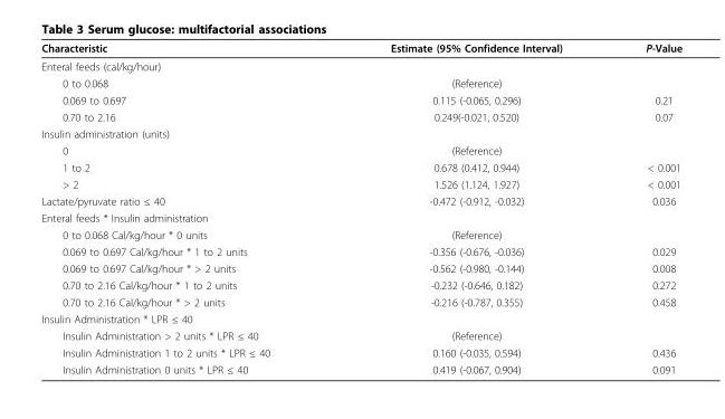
<table><thead><tr><td>Characteristic</td><td>Estimate (95% Confidence Interval)</td><td>P-Value</td></tr></thead><tbody><tr><td colspan="3">Enteral feeds (cal/kg/hour)</td></tr><tr><td>0 to 0.068</td><td>(Reference)</td><td></td></tr><tr><td>0.069 to 0.697</td><td>0.115 (-0.065, 0.296)</td><td>0.21</td></tr><tr><td>0.70 to 2.16</td><td>0.249(-0.021, 0.520)</td><td>0.07</td></tr><tr><td colspan="3">Insulin administration (units)</td></tr><tr><td>0</td><td>(Reference)</td><td></td></tr><tr><td>1 to 2</td><td>0.678 (0.412, 0.944)</td><td>&lt; 0.001</td></tr><tr><td>&gt; 2</td><td>1.526 (1.124, 1.927)</td><td>&lt; 0.001</td></tr><tr><td>Lactate/pyruvate ratio ≤ 40</td><td>-0.472 (-0.912, -0.032)</td><td>0.036</td></tr><tr><td colspan="3">Enteral feeds * Insulin administration</td></tr><tr><td>0 to 0.068 Cal/kg/hour * 0 units</td><td>(Reference)</td><td></td></tr><tr><td>0.069 to 0.697 Cal/kg/hour * 1 to 2 units</td><td>-0.356 (-0.676, -0.036)</td><td>0.029</td></tr><tr><td>0.069 to 0.697 Cal/kg/hour * &gt; 2 units</td><td>-0.562 (-0.980, -0.144)</td><td>0.008</td></tr><tr><td>0.70 to 2.16 Cal/kg/hour * 1 to 2 units</td><td>-0.232 (-0.646, 0.182)</td><td>0.272</td></tr><tr><td>0.70 to 2.16 Cal/kg/hour * &gt; 2 units</td><td>-0.216 (-0.787, 0.355)</td><td>0.458</td></tr><tr><td colspan="3">Insulin Administration * LPR ≤ 40</td></tr><tr><td>Insulin Administration &gt; 2 units * LPR ≤ 40</td><td>(Reference)</td><td></td></tr><tr><td>Insulin Administration 1 to 2 units * LPR ≤ 40</td><td>0.160 (-0.035, 0.594)</td><td>0.436</td></tr><tr><td>Insulin Administration 0 units * LPR ≤ 40</td><td>0.419 (-0.067, 0.904)</td><td>0.091</td></tr></tbody></table>